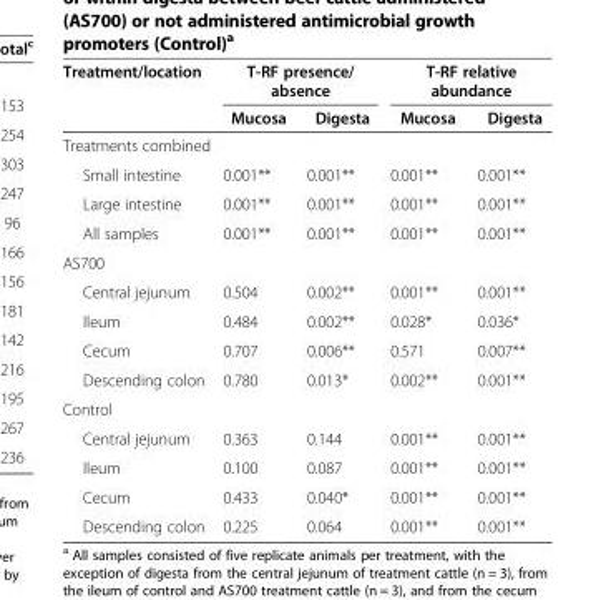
<table><thead><tr><td rowspan="2">Treatment/location</td><td colspan="2">T-RF presence/ absence</td><td colspan="2">T-RF relative abundance</td></tr><tr><td>Mucosa</td><td>Digesta</td><td>Mucosa</td><td>Digesta</td></tr></thead><tbody><tr><td colspan="5">Treatments combined</td></tr><tr><td>Small intestine</td><td>0.001**</td><td>0.001**</td><td>0.001**</td><td>0.001**</td></tr><tr><td>Large intestine</td><td>0.001**</td><td>0.001**</td><td>0.001**</td><td>0.001**</td></tr><tr><td>All samples</td><td>0.001**</td><td>0.001**</td><td>0.001**</td><td>0.001**</td></tr><tr><td colspan="5">AS700</td></tr><tr><td>Central jejunum</td><td>0.504</td><td>0.002**</td><td>0.001**</td><td>0.001**</td></tr><tr><td>Ileum</td><td>0.484</td><td>0.002**</td><td>0.028*</td><td>0.036*</td></tr><tr><td>Cecum</td><td>0.707</td><td>0.006**</td><td>0.571</td><td>0.007**</td></tr><tr><td>Descending colon</td><td>0.780</td><td>0.013*</td><td>0.002**</td><td>0.001**</td></tr><tr><td colspan="5">Control</td></tr><tr><td>Central jejunum</td><td>0.363</td><td>0.144</td><td>0.001**</td><td>0.001**</td></tr><tr><td>Ileum</td><td>0.100</td><td>0.087</td><td>0.001**</td><td>0.001**</td></tr><tr><td>Cecum</td><td>0.433</td><td>0.040*</td><td>0.001**</td><td>0.001**</td></tr><tr><td>Descending colon</td><td>0.225</td><td>0.064</td><td>0.001**</td><td>0.001**</td></tr></tbody></table>